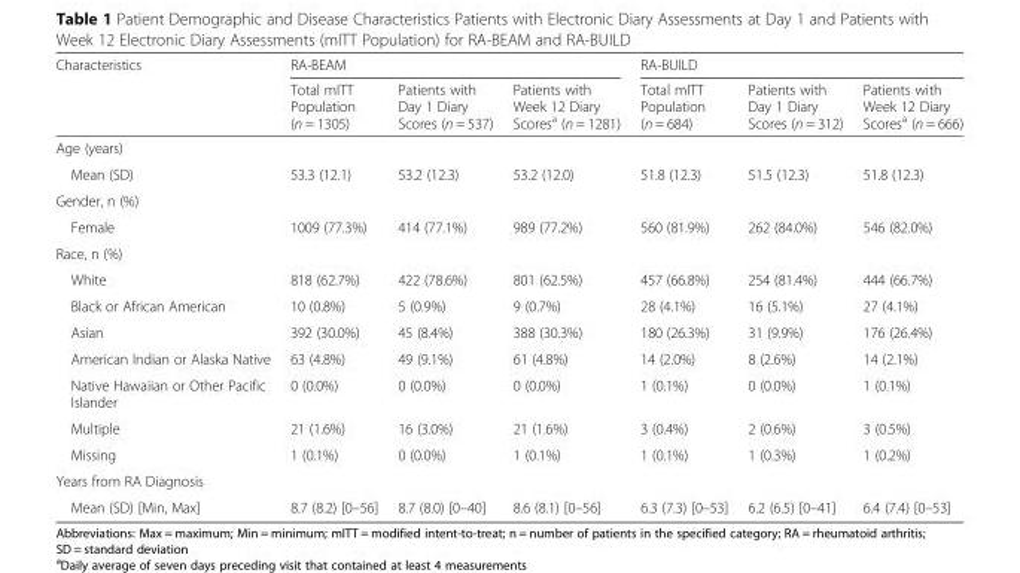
<table><thead><tr><td rowspan="2">Characteristics</td><td colspan="3">RA-BEAM</td><td colspan="3">RA-BUILD</td></tr><tr><td>Total mITT Population (n = 1305)</td><td>Patients with Day 1 Diary Scores (n = 537)</td><td>Patients with Week 12 Diary Scores<sup>a</sup> (n = 1281)</td><td>Total mITT Population (n = 684)</td><td>Patients with Day 1 Diary Scores (n = 312)</td><td>Patients with Week 12 Diary Scores<sup>a</sup> (n = 666)</td></tr></thead><tbody><tr><td colspan="7">Age (years)</td></tr><tr><td>Mean (SD)</td><td>53.3 (12.1)</td><td>53.2 (12.3)</td><td>53.2 (12.0)</td><td>51.8 (12.3)</td><td>51.5 (12.3)</td><td>51.8 (12.3)</td></tr><tr><td colspan="7">Gender, n (%)</td></tr><tr><td>Female</td><td>1009 (77.3%)</td><td>414 (77.1%)</td><td>989 (77.2%)</td><td>560 (81.9%)</td><td>262 (84.0%)</td><td>546 (82.0%)</td></tr><tr><td colspan="7">Race, n (%)</td></tr><tr><td>White</td><td>818 (62.7%)</td><td>422 (78.6%)</td><td>801 (62.5%)</td><td>457 (66.8%)</td><td>254 (81.4%)</td><td>444 (66.7%)</td></tr><tr><td>Black or African American</td><td>10 (0.8%)</td><td>5 (0.9%)</td><td>9 (0.7%)</td><td>28 (4.1%)</td><td>16 (5.1%)</td><td>27 (4.1%)</td></tr><tr><td>Asian</td><td>392 (30.0%)</td><td>45 (8.4%)</td><td>388 (30.3%)</td><td>180 (26.3%)</td><td>31 (9.9%)</td><td>176 (26.4%)</td></tr><tr><td>American Indian or Alaska Native</td><td>63 (4.8%)</td><td>49 (9.1%)</td><td>61 (4.8%)</td><td>14 (2.0%)</td><td>8 (2.6%)</td><td>14 (2.1%)</td></tr><tr><td>Native Hawaiian or Other Pacific Islander</td><td>0 (0.0%)</td><td>0 (0.0%)</td><td>0 (0.0%)</td><td>1 (0.1%)</td><td>0 (0.0%)</td><td>1 (0.1%)</td></tr><tr><td>Multiple</td><td>21 (1.6%)</td><td>16 (3.0%)</td><td>21 (1.6%)</td><td>3 (0.4%)</td><td>2 (0.6%)</td><td>3 (0.5%)</td></tr><tr><td>Missing</td><td>1 (0.1%)</td><td>0 (0.0%)</td><td>1 (0.1%)</td><td>1 (0.1%)</td><td>1 (0.3%)</td><td>1 (0.2%)</td></tr><tr><td colspan="7">Years from RA Diagnosis</td></tr><tr><td>Mean (SD) [Min, Max]</td><td>8.7 (8.2) [0–56]</td><td>8.7 (8.0) [0–40]</td><td>8.6 (8.1) [0–56]</td><td>6.3 (7.3) [0–53]</td><td>6.2 (6.5) [0–41]</td><td>6.4 (7.4) [0–53]</td></tr></tbody></table>